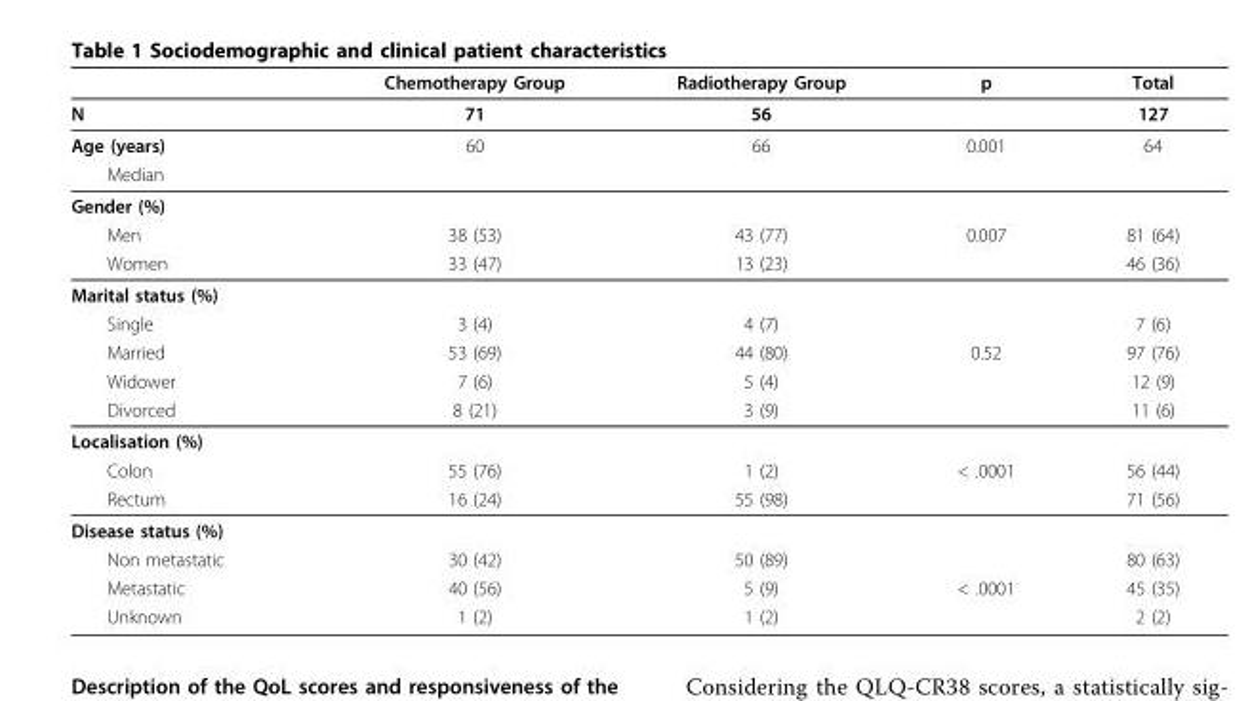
<table><thead><tr><td></td><td>Chemotherapy Group</td><td>Radiotherapy Group</td><td>p</td><td>Total</td></tr></thead><tbody><tr><td>N</td><td>71</td><td>56</td><td></td><td>127</td></tr><tr><td>Age (years)</td><td>60</td><td>66</td><td>0.001</td><td>64</td></tr><tr><td colspan="5">Median</td></tr><tr><td colspan="5">Gender (%)</td></tr><tr><td>Men</td><td>38 (53)</td><td>43 (77)</td><td>0.007</td><td>81 (64)</td></tr><tr><td>Women</td><td>33 (47)</td><td>13 (23)</td><td></td><td>46 (36)</td></tr><tr><td colspan="5">Marital status (%)</td></tr><tr><td>Single</td><td>3 (4)</td><td>4 (7)</td><td></td><td>7 (6)</td></tr><tr><td>Married</td><td>53 (69)</td><td>44 (80)</td><td>0.52</td><td>97 (76)</td></tr><tr><td>Widower</td><td>7 (6)</td><td>5 (4)</td><td></td><td>12 (9)</td></tr><tr><td>Divorced</td><td>8 (21)</td><td>3 (9)</td><td></td><td>11 (6)</td></tr><tr><td colspan="5">Localisation (%)</td></tr><tr><td>Colon</td><td>55 (76)</td><td>1 (2)</td><td>&lt; .0001</td><td>56 (44)</td></tr><tr><td>Rectum</td><td>16 (24)</td><td>55 (98)</td><td></td><td>71 (56)</td></tr><tr><td colspan="5">Disease status (%)</td></tr><tr><td>Non metastatic</td><td>30 (42)</td><td>50 (89)</td><td></td><td>80 (63)</td></tr><tr><td>Metastatic</td><td>40 (56)</td><td>5 (9)</td><td>&lt; .0001</td><td>45 (35)</td></tr><tr><td>Unknown</td><td>1 (2)</td><td>1 (2)</td><td></td><td>2 (2)</td></tr></tbody></table>